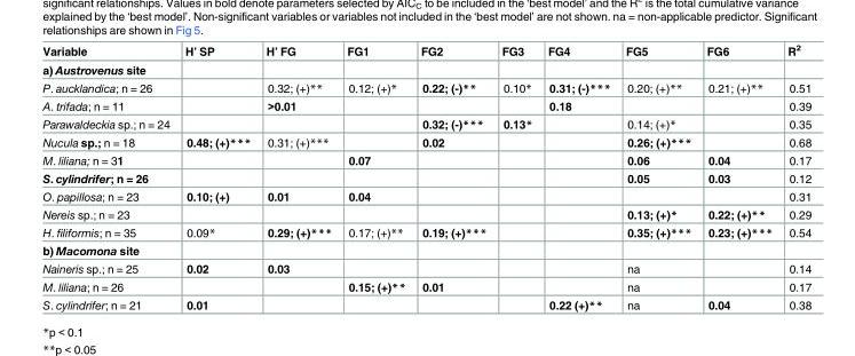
<table><thead><tr><td>Variable</td><td>H’ SP</td><td>H’ FG</td><td>FG1</td><td>FG2</td><td>FG3</td><td>FG4</td><td>FG5</td><td>FG6</td><td>R<sup>2</sup></td></tr></thead><tbody><tr><td colspan="10">a) Austrovenus site</td></tr><tr><td>P. aucklandica; n = 26</td><td></td><td>0.32; (+)**</td><td>0.12; (+)*</td><td>0.22; (-)**</td><td>0.10*</td><td>0.31; (-)***</td><td>0.20; (+)**</td><td>0.21; (+)**</td><td>0.51</td></tr><tr><td>A. trifada; n = 11</td><td></td><td>&gt;0.01</td><td></td><td></td><td></td><td>0.18</td><td></td><td></td><td>0.39</td></tr><tr><td>Parawaldeckia sp.; n = 24</td><td></td><td></td><td></td><td>0.32; (-)***</td><td>0.13*</td><td></td><td>0.14; (+)*</td><td></td><td>0.35</td></tr><tr><td>Nucula sp.; n = 18</td><td>0.48; (+)***</td><td>0.31; (+)***</td><td></td><td>0.02</td><td></td><td></td><td>0.26; (+)***</td><td></td><td>0.68</td></tr><tr><td>M. liliana; n = 31</td><td></td><td></td><td>0.07</td><td></td><td></td><td></td><td>0.06</td><td>0.04</td><td>0.17</td></tr><tr><td>S. cylindrifer; n = 26</td><td></td><td></td><td></td><td></td><td></td><td></td><td>0.05</td><td>0.03</td><td>0.12</td></tr><tr><td>O. papillosa; n = 23</td><td>0.10; (+)</td><td>0.01</td><td>0.04</td><td></td><td></td><td></td><td></td><td></td><td>0.31</td></tr><tr><td>Nereis sp.; n = 23</td><td></td><td></td><td></td><td></td><td></td><td></td><td>0.13; (+)*</td><td>0.22; (+)**</td><td>0.29</td></tr><tr><td>H. filiformis; n = 35</td><td>0.09*</td><td>0.29; (+)***</td><td>0.17; (+)**</td><td>0.19; (+)***</td><td></td><td></td><td>0.35; (+)***</td><td>0.23; (+)***</td><td>0.54</td></tr><tr><td colspan="10">b) Macomona site</td></tr><tr><td>Naineris sp.; n = 25</td><td>0.02</td><td>0.03</td><td></td><td></td><td></td><td></td><td>na</td><td></td><td>0.14</td></tr><tr><td>M. liliana; n = 26</td><td></td><td></td><td>0.15; (+)**</td><td>0.01</td><td></td><td></td><td>na</td><td></td><td>0.17</td></tr><tr><td>S. cylindrifer; n = 21</td><td>0.01</td><td></td><td></td><td></td><td></td><td>0.22 (+)**</td><td>na</td><td>0.04</td><td>0.38</td></tr></tbody></table>